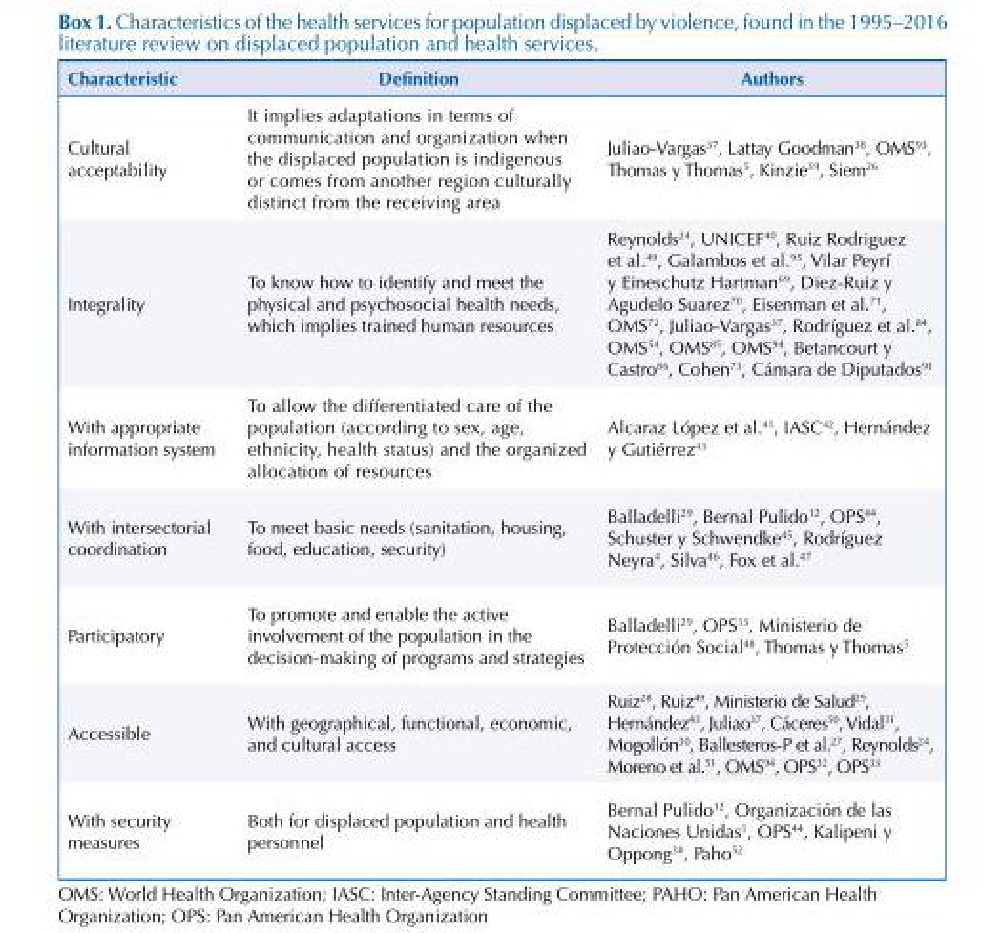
<table><thead><tr><td>Characteristic</td><td>Definition</td><td>Authors</td></tr></thead><tbody><tr><td>Cultural acceptability</td><td>It implies adaptations in terms of communication and organization when the displaced population is indigenous or comes from another region culturally distinct from the receiving area</td><td>Juliao-Vargas<sup>37</sup>, Lattay Goodman<sup>38</sup>, OMS<sup>93</sup>, Thomas y Thomas<sup>5</sup>, Kinzie<sup>39</sup>, Siem<sup>26</sup></td></tr><tr><td>Integrality</td><td>To know how to identify and meet the physical and psychosocial health needs, which implies trained human resources</td><td>Reynolds<sup>24</sup>, UNICEF<sup>40</sup>, Ruiz Rodriguez et al.<sup>49</sup>, Galambos et al.<sup>95</sup>, Vilar Peyrí y Eineschutz Hartman<sup>69</sup>, Diez-Ruiz y Agudelo Suarez<sup>70</sup>, Eisenman et al.<sup>71</sup>, OMS<sup>72</sup>, Juliao-Vargas<sup>37</sup>, Rodríguez et al.<sup>84</sup>, OMS<sup>54</sup>, OMS<sup>85</sup>, OMS<sup>94</sup>, Betancourt y Castro<sup>86</sup>, Cohen<sup>73</sup>, Cámara de Diputados<sup>91</sup></td></tr><tr><td>With appropriate information system</td><td>To allow the differentiated care of the population (according to sex, age, ethnicity, health status) and the organized allocation of resources</td><td>Alcaraz López et al.<sup>41</sup>, IASC<sup>42</sup>, Hernández y Gutiérrez<sup>43</sup></td></tr><tr><td>With intersectorial coordination</td><td>To meet basic needs (sanitation, housing, food, education, security)</td><td>Balladelli<sup>29</sup>, Bernal Pulido<sup>12</sup>, OPS<sup>44</sup>, Schuster y Schwendke<sup>45</sup>, Rodríguez Neyra<sup>4</sup>, Silva<sup>46</sup>, Fox et al.<sup>47</sup></td></tr><tr><td>Participatory</td><td>To promote and enable the active involvement of the population in the decision-making of programs and strategies</td><td>Balladelli<sup>29</sup>, OPS<sup>33</sup>, Ministerio de Protección Social<sup>48</sup>, Thomas y Thomas<sup>5</sup></td></tr><tr><td>Accessible</td><td>With geographical, functional, economic, and cultural access</td><td>Ruiz<sup>28</sup>, Ruiz<sup>49</sup>, Ministerio de Salud<sup>29</sup>, Hernández<sup>43</sup>, Juliao<sup>37</sup>, Cáceres<sup>50</sup>, Vidal<sup>31</sup>, Mogollón<sup>30</sup>, Ballesteros-P et al.<sup>27</sup>, Reynolds<sup>24</sup>, Moreno et al.<sup>51</sup>, OMS<sup>94</sup>, OPS<sup>32</sup>, OPS<sup>33</sup></td></tr><tr><td>With security measures</td><td>Both for displaced population and health personnel</td><td>Bernal Pulido<sup>12</sup>, Organización de las Naciones Unidas<sup>1</sup>, OPS<sup>44</sup>, Kalipeni y Oppong<sup>34</sup>, Paho<sup>52</sup></td></tr></tbody></table>